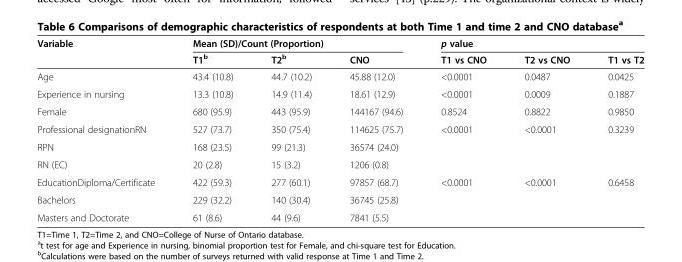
<table><thead><tr><td rowspan="2">Variable</td><td colspan="3">Mean (SD)/Count (Proportion)</td><td colspan="3">p value</td></tr><tr><td>T1<sup>b</sup></td><td>T2<sup>b</sup></td><td>CNO</td><td>T1 vs CNO</td><td>T2 vs CNO</td><td>T1 vs T2</td></tr></thead><tbody><tr><td>Age</td><td>43.4 (10.8)</td><td>44.7 (10.2)</td><td>45.88 (12.0)</td><td>&lt;0.0001</td><td>0.0487</td><td>0.0425</td></tr><tr><td>Experience in nursing</td><td>13.3 (10.8)</td><td>14.9 (11.4)</td><td>18.61 (12.9)</td><td>&lt;0.0001</td><td>0.0009</td><td>0.1887</td></tr><tr><td>Female</td><td>680 (95.9)</td><td>443 (95.9)</td><td>144167 (94.6)</td><td>0.8524</td><td>0.8822</td><td>0.9850</td></tr><tr><td>Professional designationRN</td><td>527 (73.7)</td><td>350 (75.4)</td><td>114625 (75.7)</td><td rowspan="3">&lt;0.0001</td><td rowspan="3">&lt;0.0001</td><td rowspan="3">0.3239</td></tr><tr><td>RPN</td><td>168 (23.5)</td><td>99 (21.3)</td><td>36574 (24.0)</td></tr><tr><td>RN (EC)</td><td>20 (2.8)</td><td>15 (3.2)</td><td>1206 (0.8)</td></tr><tr><td>EducationDiploma/Certificate</td><td>422 (59.3)</td><td>277 (60.1)</td><td>97857 (68.7)</td><td rowspan="2">&lt;0.0001</td><td rowspan="2">&lt;0.0001</td><td rowspan="2">0.6458</td></tr><tr><td>Bachelors</td><td>229 (32.2)</td><td>140 (30.4)</td><td>36745 (25.8)</td></tr><tr><td>Masters and Doctorate</td><td>61 (8.6)</td><td>44 (9.6)</td><td>7841 (5.5)</td><td></td><td></td><td></td></tr></tbody></table>